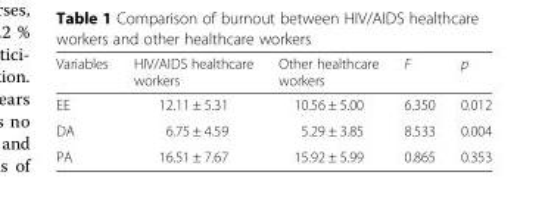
<table><thead><tr><td>Variables</td><td>HIV/AIDS healthcare workers</td><td>Other healthcare workers</td><td>F</td><td>p</td></tr></thead><tbody><tr><td>EE</td><td>12.11 ± 5.31</td><td>10.56 ± 5.00</td><td>6.350</td><td>0.012</td></tr><tr><td>DA</td><td>6.75 ± 4.59</td><td>5.29 ± 3.85</td><td>8.533</td><td>0.004</td></tr><tr><td>PA</td><td>16.51 ± 7.67</td><td>15.92 ± 5.99</td><td>0.865</td><td>0.353</td></tr></tbody></table>